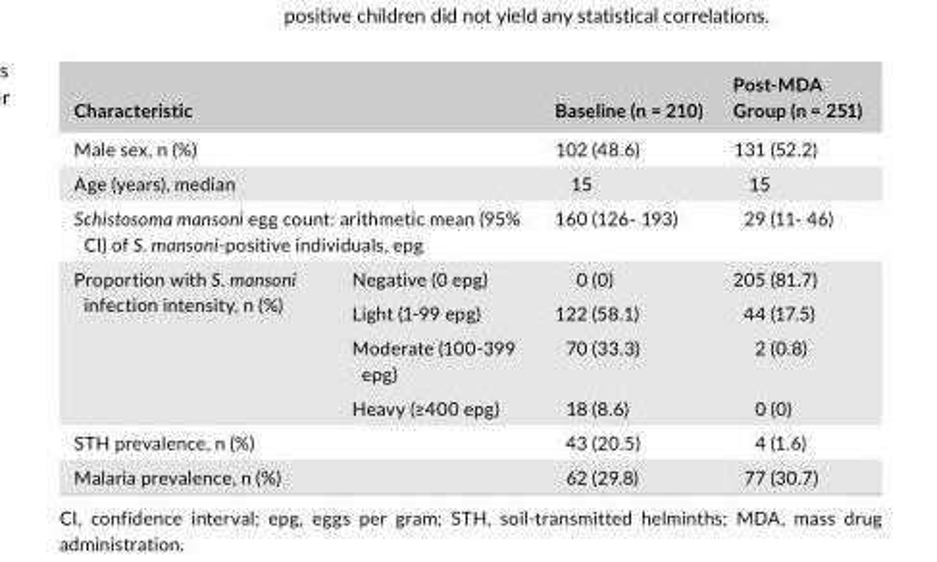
<table><thead><tr><td colspan="2">Characteristic</td><td>Baseline (n = 210)</td><td>Post- MDA Group (n = 251)</td></tr></thead><tbody><tr><td colspan="2">Male sex, n (%)</td><td>102 (48.6)</td><td>131 (52.2)</td></tr><tr><td colspan="2">Age (years), median</td><td>15</td><td>15</td></tr><tr><td colspan="2">Schistosoma mansoni egg count: arithmetic mean (95% CI) of S. mansoni- positive individuals, epg</td><td>160 (126- 193)</td><td>29 (11- 46)</td></tr><tr><td rowspan="4">Proportion with S. mansoni infection intensity, n (%)</td><td>Negative (0 epg)</td><td>0 (0)</td><td>205 (81.7)</td></tr><tr><td>Light (1- 99 epg)</td><td>122 (58.1)</td><td>44 (17.5)</td></tr><tr><td>Moderate (100- 399 epg)</td><td>70 (33.3)</td><td>2 (0.8)</td></tr><tr><td>Heavy (≥400 epg)</td><td>18 (8.6)</td><td>0 (0)</td></tr><tr><td colspan="2">STH prevalence, n (%)</td><td>43 (20.5)</td><td>4 (1.6)</td></tr><tr><td colspan="2">Malaria prevalence, n (%)</td><td>62 (29.8)</td><td>77 (30.7)</td></tr></tbody></table>